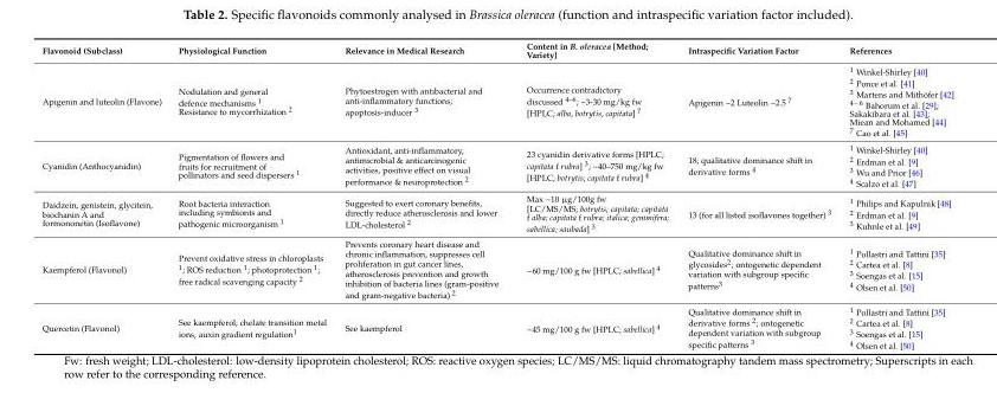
<table><thead><tr><td>Flavonoid (Subclass)</td><td>Physiological Function</td><td>Relevance in Medical Research</td><td>Content in B. oleracea [Method; Variety]</td><td>Intraspecific Variation Factor</td><td>References</td></tr></thead><tbody><tr><td>Apigenin and luteolin (Flavone)</td><td>Nodulation and general defence mechanisms <sup>1</sup> Resistance to mycorrhization <sup>2</sup></td><td>Phytoestrogen with antibacterial and anti-inflammatory functions; apoptosis-inducer <sup>3</sup></td><td>Occurrence contradictory discussed <sup>4–6</sup>; ~3-30 mg/kg fw [HPLC; alba, botrytis, capitata] <sup>7</sup></td><td>Apigenin ~2 Luteolin ~2.5 <sup>7</sup></td><td><sup>1</sup> Winkel-Shirley [40] <sup>2</sup> Ponce et al. [41] <sup>3</sup> Martens and Mithöfer [42] <sup>4−6</sup> Bahorum et al. [29]; Sakakibara et al. [43]; Miean and Mohamed [44] <sup>7</sup> Cao et al. [45]</td></tr><tr><td>Cyanidin (Anthocyanidin)</td><td>Pigmentation of flowers and fruits for recruitment of pollinators and seed dispersers <sup>1</sup></td><td>Antioxidant, anti-inflammatory, antimicrobial &amp; anticarcinogenic activities, positive effect on visual performance &amp; neuroprotection <sup>2</sup></td><td>23 cyanidin derivative forms [HPLC; capitata f rubra] <sup>3</sup>; ~40–750 mg/kg fw [HPLC; botrytis; capitata f rubra] <sup>4</sup></td><td>18; qualitative dominance shift in derivative forms <sup>4</sup></td><td><sup>1</sup> Winkel-Shirley [40] <sup>2</sup> Erdman et al. [9] <sup>3</sup> Wu and Prior [46] <sup>4</sup> Scalzo et al. [47]</td></tr><tr><td>Daidzein, genistein, glycitein, biochanin A and formononetin (Isoflavone)</td><td>Root bacteria interaction including symbionts and pathogenic microorganism <sup>1</sup></td><td>Suggested to exert coronary benefits, directly reduce atherosclerosis and lower LDL-cholesterol <sup>2</sup></td><td>Max ~10 µg/100g fw [LC/MS/MS; botrytis; capitata; capitata f alba; capitata f rubra; italica; gemmifera; sabellica; saubada] <sup>3</sup></td><td>13 (for all listed isoflavones together) <sup>3</sup></td><td><sup>1</sup> Philips and Kapulnik [48] <sup>2</sup> Erdman et al. [9] <sup>3</sup> Kuhnle et al. [49]</td></tr><tr><td>Kaempferol (Flavonol)</td><td>Prevent oxidative stress in chloroplasts <sup>1</sup>; ROS reduction <sup>1</sup>; photoprotection <sup>1</sup>; free radical scavenging capacity <sup>2</sup></td><td>Prevents coronary heart disease and chronic inflammation, suppresses cell proliferation in gut cancer lines, atherosclerosis prevention and growth inhibition of bacteria lines (gram-positive and gram-negative bacteria) <sup>2</sup></td><td>~60 mg/100 g fw [HPLC; sabellica] <sup>4</sup></td><td>Qualitative dominance shift in glycosides<sup>2</sup>; ontogenetic dependent variation with subgroup specific patterns<sup>3</sup></td><td><sup>1</sup> Pollastri and Tattini [35] <sup>2</sup> Cartea et al. [8] <sup>3</sup> Soengas et al. [15] <sup>4</sup> Olsen et al. [50]</td></tr><tr><td>Quercetin (Flavonol)</td><td>See kaempferol; chelate transition metal ions, auxin gradient regulation<sup>1</sup></td><td>See kaempferol</td><td>~45 mg/100 g fw [HPLC; sabellica] <sup>4</sup></td><td>Qualitative dominance shift in derivative forms <sup>2</sup>; ontogenetic dependent variation with subgroup specific patterns <sup>3</sup></td><td><sup>1</sup> Pollastri and Tattini [35] <sup>2</sup> Cartea et al. [8] <sup>3</sup> Soengas et al. [15] <sup>4</sup> Olsen et al. [50]</td></tr></tbody></table>